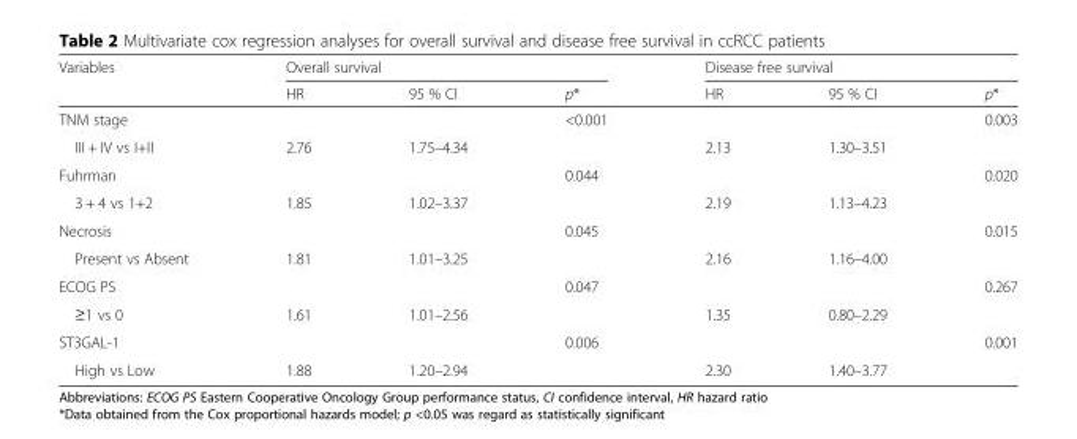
<table><thead><tr><td rowspan="2">Variables</td><td colspan="3">Overall survival</td><td colspan="3">Disease free survival</td></tr><tr><td>HR</td><td>95 % CI</td><td>p*</td><td>HR</td><td>95 % CI</td><td>p*</td></tr></thead><tbody><tr><td>TNM stage</td><td></td><td></td><td>&lt;0.001</td><td></td><td></td><td>0.003</td></tr><tr><td>III + IV vs I+II</td><td>2.76</td><td>1.75–4.34</td><td></td><td>2.13</td><td>1.30–3.51</td><td></td></tr><tr><td>Fuhrman</td><td></td><td></td><td>0.044</td><td></td><td></td><td>0.020</td></tr><tr><td>3 + 4 vs 1+2</td><td>1.85</td><td>1.02–3.37</td><td></td><td>2.19</td><td>1.13–4.23</td><td></td></tr><tr><td>Necrosis</td><td></td><td></td><td>0.045</td><td></td><td></td><td>0.015</td></tr><tr><td>Present vs Absent</td><td>1.81</td><td>1.01–3.25</td><td></td><td>2.16</td><td>1.16–4.00</td><td></td></tr><tr><td>ECOG PS</td><td></td><td></td><td>0.047</td><td></td><td></td><td>0.267</td></tr><tr><td>≥1 vs 0</td><td>1.61</td><td>1.01–2.56</td><td></td><td>1.35</td><td>0.80–2.29</td><td></td></tr><tr><td>ST3GAL-1</td><td></td><td></td><td>0.006</td><td></td><td></td><td>0.001</td></tr><tr><td>High vs Low</td><td>1.88</td><td>1.20–2.94</td><td></td><td>2.30</td><td>1.40–3.77</td><td></td></tr></tbody></table>